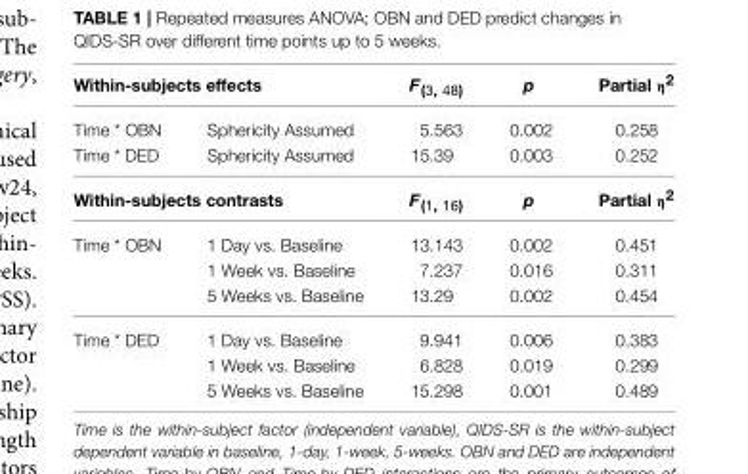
<table><thead><tr><td colspan="2">Within-subjects effects</td><td rowspan="2">F<sub>(3, 48)</sub> 5.563</td><td rowspan="2">p 0.002</td><td rowspan="2">Partial η2 0.258</td></tr><tr><td>Time * OBN</td><td>Sphericity Assumed</td></tr></thead><tbody><tr><td>Time * DED</td><td>Sphericity Assumed</td><td>15.39</td><td>0.003</td><td>0.252</td></tr><tr><td colspan="2">Within-subjects contrasts</td><td>F<sub>(1, 16)</sub></td><td>p</td><td>Partial η2</td></tr><tr><td rowspan="3">Time * OBN</td><td>1 Day vs. Baseline</td><td>13.143</td><td>0.002</td><td>0.451</td></tr><tr><td>1 Week vs. Baseline</td><td>7.237</td><td>0.016</td><td>0.311</td></tr><tr><td>5 Weeks vs. Baseline</td><td>13.29</td><td>0.002</td><td>0.454</td></tr><tr><td rowspan="3">Time * DED</td><td>1 Day vs. Baseline</td><td>9.941</td><td>0.006</td><td>0.383</td></tr><tr><td>1 Week vs. Baseline</td><td>6.828</td><td>0.019</td><td>0.299</td></tr><tr><td>5 Weeks vs. Baseline</td><td>15.298</td><td>0.001</td><td>0.489</td></tr></tbody></table>